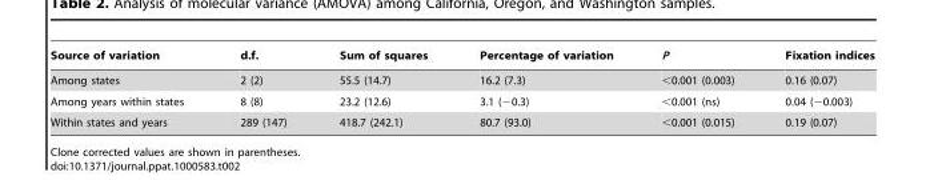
<table><thead><tr><td>Source of variation</td><td>d.f.</td><td>Sum of squares</td><td>Percentage of variation</td><td>P</td><td>Fixation indices</td></tr></thead><tbody><tr><td>Among states</td><td>2 (2)</td><td>55.5 (14.7)</td><td>16.2 (7.3)</td><td>&lt;0.001 (0.003)</td><td>0.16 (0.07)</td></tr><tr><td>Among years within states</td><td>8 (8)</td><td>23.2 (12.6)</td><td>3.1 (−0.3)</td><td>&lt;0.001 (ns)</td><td>0.04 (−0.003)</td></tr><tr><td>Within states and years</td><td>289 (147)</td><td>418.7 (242.1)</td><td>80.7 (93.0)</td><td>&lt;0.001 (0.015)</td><td>0.19 (0.07)</td></tr></tbody></table>